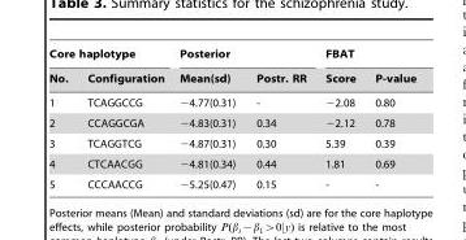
<table><thead><tr><td colspan="2">Core haplotype</td><td colspan="2">Posterior</td><td colspan="2">FBAT</td></tr><tr><td>No.</td><td>Configuration</td><td>Mean(sd)</td><td>Postr. RR</td><td>Score</td><td>P-value</td></tr></thead><tbody><tr><td>1</td><td>TCAGGCCG</td><td>−4.77(0.31)</td><td>-</td><td>−2.08</td><td>0.80</td></tr><tr><td>2</td><td>CCAGGCGA</td><td>−4.83(0.31)</td><td>0.34</td><td>−2.12</td><td>0.78</td></tr><tr><td>3</td><td>TCAGGTCG</td><td>−4.87(0.31)</td><td>0.30</td><td>5.39</td><td>0.39</td></tr><tr><td>4</td><td>CTCAACGG</td><td>−4.81(0.34)</td><td>0.44</td><td>1.81</td><td>0.69</td></tr><tr><td>5</td><td>CCCAACCG</td><td>−5.25(0.47)</td><td>0.15</td><td>-</td><td>-</td></tr></tbody></table>